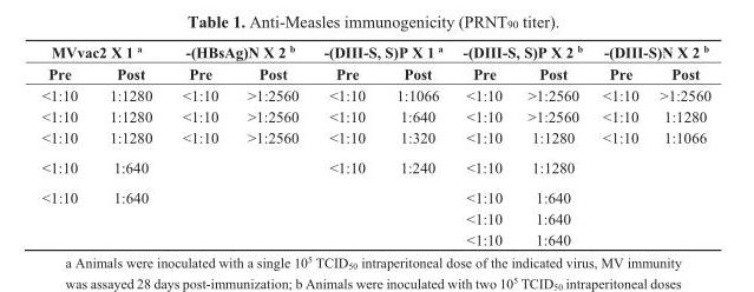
<table><thead><tr><td colspan="2">MVvac2 X 1 <sup>a</sup></td><td colspan="2">-(HBsAg)N X 2 <sup>b</sup></td><td colspan="2">-(DIII-S, S)P X 1 <sup>a</sup></td><td colspan="2">-(DIII-S, S)P X 2 <sup>b</sup></td><td colspan="2">-(DIII-S)N X 2 <sup>b</sup></td></tr><tr><td>Pre</td><td>Post</td><td>Pre</td><td>Post</td><td>Pre</td><td>Post</td><td>Pre</td><td>Post</td><td>Pre</td><td>Post</td></tr></thead><tbody><tr><td>&lt;1:10</td><td>1:1280</td><td>&lt;1:10</td><td>&gt;1:2560</td><td>&lt;1:10</td><td>1:1066</td><td>&lt;1:10</td><td>&gt;1:2560</td><td>&lt;1:10</td><td>&gt;1:2560</td></tr><tr><td>&lt;1:10</td><td>1:1280</td><td>&lt;1:10</td><td>&gt;1:2560</td><td>&lt;1:10</td><td>1:640</td><td>&lt;1:10</td><td>&gt;1:2560</td><td>&lt;1:10</td><td>1:1280</td></tr><tr><td>&lt;1:10</td><td>1:1280</td><td>&lt;1:10</td><td>&gt;1:2560</td><td>&lt;1:10</td><td>1:320</td><td>&lt;1:10</td><td>1:1280</td><td>&lt;1:10</td><td>1:1066</td></tr><tr><td>&lt;1:10</td><td>1:640</td><td></td><td></td><td>&lt;1:10</td><td>1:240</td><td>&lt;1:10</td><td>1:1280</td><td></td><td></td></tr><tr><td rowspan="3">&lt;1:10</td><td>1:640</td><td></td><td></td><td></td><td></td><td>&lt;1:10</td><td>1:640</td><td></td><td></td></tr><tr><td></td><td></td><td></td><td></td><td></td><td>&lt;1:10</td><td>1:640</td><td></td><td></td></tr><tr><td></td><td></td><td></td><td></td><td></td><td>&lt;1:10</td><td>1:640</td><td></td><td></td></tr></tbody></table>